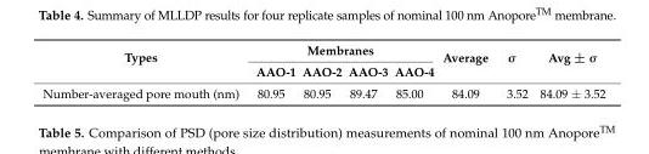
<table><thead><tr><td rowspan="2">Types</td><td colspan="4">Membranes</td><td rowspan="2">Average</td><td rowspan="2">σ</td><td rowspan="2">Avg ± σ</td></tr><tr><td>AAO-1</td><td>AAO-2</td><td>AAO-3</td><td>AAO-4</td></tr></thead><tbody><tr><td>Number-averaged pore mouth (nm)</td><td>80.95</td><td>80.95</td><td>89.47</td><td>85.00</td><td>84.09</td><td>3.52</td><td>84.09 ± 3.52</td></tr></tbody></table>